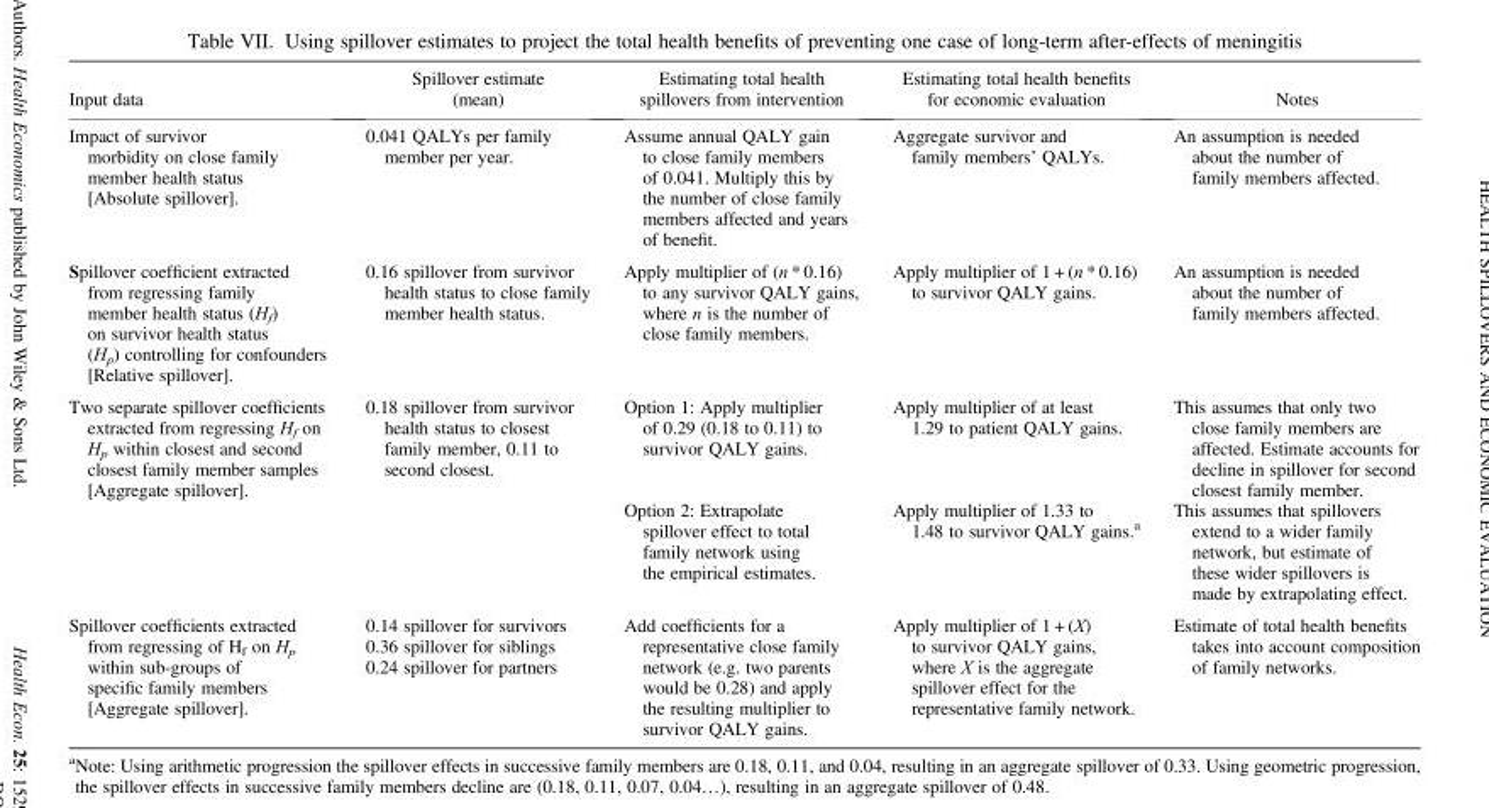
<table><thead><tr><td>Input data</td><td>Spillover estimate (mean)</td><td>Estimating total health spillovers from intervention</td><td>Estimating total health benefits for economic evaluation</td><td>Notes</td></tr></thead><tbody><tr><td>Impact of survivor morbidity on close family member health status [Absolute spillover].</td><td>0.041 QALYs per family member per year.</td><td>Assume annual QALY gain to close family members of 0.041. Multiply this by the number of close family members affected and years of benefit.</td><td>Aggregate survivor and family members’ QALYs.</td><td>An assumption is needed about the number of family members affected.</td></tr><tr><td>Spillover coefficient extracted from regressing family member health status (H<sub>f</sub>) on survivor health status (H<sub>p</sub>) controlling for confounders [Relative spillover].</td><td>0.16 spillover from survivor health status to close family member health status.</td><td>Apply multiplier of (n * 0.16) to any survivor QALY gains, where n is the number of close family members.</td><td>Apply multiplier of 1 + (n * 0.16) to survivor QALY gains.</td><td>An assumption is needed about the number of family members affected.</td></tr><tr><td rowspan="2">Two separate spillover coefficients extracted from regressing H<sub>f</sub> on H<sub>p</sub> within closest and second closest family member samples [Aggregate spillover].</td><td>0.18 spillover from survivor health status to closest family member, 0.11 to second closest.</td><td>Option 1: Apply multiplier of 0.29 (0.18 to 0.11) to survivor QALY gains.</td><td>Apply multiplier of at least 1.29 to patient QALY gains.</td><td>This assumes that only two close family members are affected. Estimate accounts for decline in spillover for second closest family member.</td></tr><tr><td></td><td>Option 2: Extrapolate spillover effect to total family network using the empirical estimates.</td><td>Apply multiplier of 1.33 to 1.48 to survivor QALY gains.<sup>a</sup></td><td>This assumes that spillovers extend to a wider family network, but estimate of these wider spillovers is made by extrapolating effect.</td></tr><tr><td rowspan="3">Spillover coefficients extracted from regressing of H<sub>f</sub> on H<sub>p</sub> within sub-groups of specific family members [Aggregate spillover].</td><td>0.14 spillover for survivors</td><td rowspan="3">Add coefficients for a representative close family network (e.g. two parents would be 0.28) and apply the resulting multiplier to survivor QALY gains.</td><td rowspan="3">Apply multiplier of 1 + (X) to survivor QALY gains, where X is the aggregate spillover effect for the representative family network.</td><td rowspan="3">Estimate of total health benefits takes into account composition of family networks.</td></tr><tr><td>0.36 spillover for siblings</td></tr><tr><td>0.24 spillover for partners</td></tr></tbody></table>